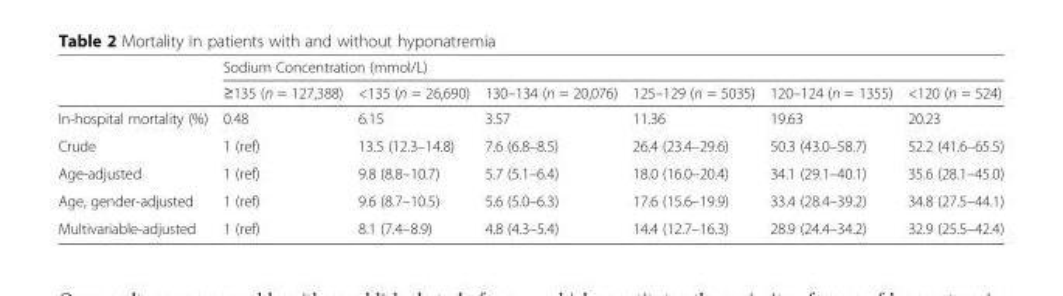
<table><thead><tr><td rowspan="2"></td><td colspan="6">Sodium Concentration (mmol/L)</td></tr><tr><td>≥135 (n = 127,388)</td><td>&lt;135 (n = 26,690)</td><td>130–134 (n = 20,076)</td><td>125–129 (n = 5035)</td><td>120–124 (n = 1355)</td><td>&lt;120 (n = 524)</td></tr></thead><tbody><tr><td>In-hospital mortality (%)</td><td>0.48</td><td>6.15</td><td>3.57</td><td>11.36</td><td>19.63</td><td>20.23</td></tr><tr><td>Crude</td><td>1 (ref)</td><td>13.5 (12.3–14.8)</td><td>7.6 (6.8–8.5)</td><td>26.4 (23.4–29.6)</td><td>50.3 (43.0–58.7)</td><td>52.2 (41.6–65.5)</td></tr><tr><td>Age-adjusted</td><td>1 (ref)</td><td>9.8 (8.8–10.7)</td><td>5.7 (5.1–6.4)</td><td>18.0 (16.0–20.4)</td><td>34.1 (29.1–40.1)</td><td>35.6 (28.1–45.0)</td></tr><tr><td>Age, gender-adjusted</td><td>1 (ref)</td><td>9.6 (8.7–10.5)</td><td>5.6 (5.0–6.3)</td><td>17.6 (15.6–19.9)</td><td>33.4 (28.4–39.2)</td><td>34.8 (27.5–44.1)</td></tr><tr><td>Multivariable-adjusted</td><td>1 (ref)</td><td>8.1 (7.4–8.9)</td><td>4.8 (4.3–5.4)</td><td>14.4 (12.7–16.3)</td><td>28.9 (24.4–34.2)</td><td>32.9 (25.5–42.4)</td></tr></tbody></table>